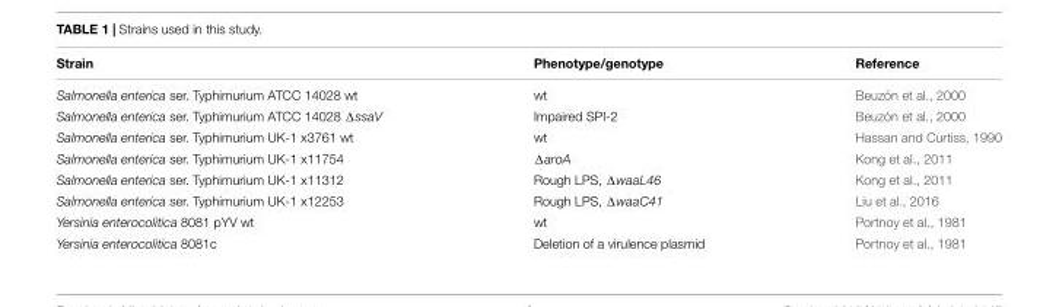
<table><thead><tr><td>Strain</td><td>Phenotype/genotype</td><td>Reference</td></tr></thead><tbody><tr><td>Salmonella enterica ser. Typhimurium ATCC 14028 wt</td><td>wt</td><td>Beuzón et al., 2000</td></tr><tr><td>Salmonella enterica ser. Typhimurium ATCC 14028 ΔssaV</td><td>Impaired SPI-2</td><td>Beuzón et al., 2000</td></tr><tr><td>Salmonella enterica ser. Typhimurium UK-1 x3761 wt</td><td>wt</td><td>Hassan and Curtiss, 1990</td></tr><tr><td>Salmonella enterica ser. Typhimurium UK-1 x11754</td><td>ΔaroA</td><td>Kong et al., 2011</td></tr><tr><td>Salmonella enterica ser. Typhimurium UK-1 x11312</td><td>Rough LPS, ΔwaaL46</td><td>Kong et al., 2011</td></tr><tr><td>Salmonella enterica ser. Typhimurium UK-1 x12253</td><td>Rough LPS, ΔwaaC41</td><td>Liu et al., 2016</td></tr><tr><td>Yersinia enterocolitica 8081 pYV wt</td><td>wt</td><td>Portnoy et al., 1981</td></tr><tr><td>Yersinia enterocolitica 8081c</td><td>Deletion of a virulence plasmid</td><td>Portnoy et al., 1981</td></tr></tbody></table>